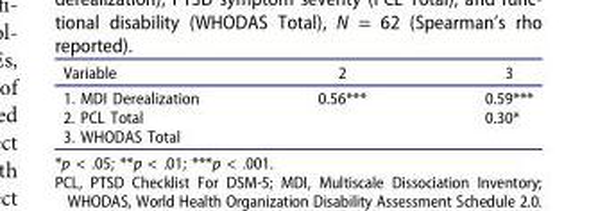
<table><thead><tr><td>Variable</td><td>2</td><td>3</td></tr></thead><tbody><tr><td>1. MDI Derealization</td><td>0.56***</td><td>0.59***</td></tr><tr><td>2. PCL Total</td><td></td><td>0.30*</td></tr><tr><td>3. WHODAS Total</td><td></td><td></td></tr></tbody></table>